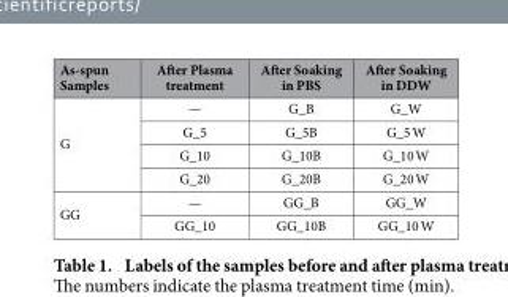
<table><thead><tr><td>As-spun Samples</td><td>After Plasma treatment</td><td>After Soaking in PBS</td><td>After Soaking in DDW</td></tr></thead><tbody><tr><td rowspan="4">G</td><td>—</td><td>G_B</td><td>G_W</td></tr><tr><td>G_5</td><td>G_5B</td><td>G_5 W</td></tr><tr><td>G_10</td><td>G_10B</td><td>G_10 W</td></tr><tr><td>G_20</td><td>G_20B</td><td>G_20 W</td></tr><tr><td rowspan="2">GG</td><td>—</td><td>GG_B</td><td>GG_W</td></tr><tr><td>GG_10</td><td>GG_10B</td><td>GG_10 W</td></tr></tbody></table>